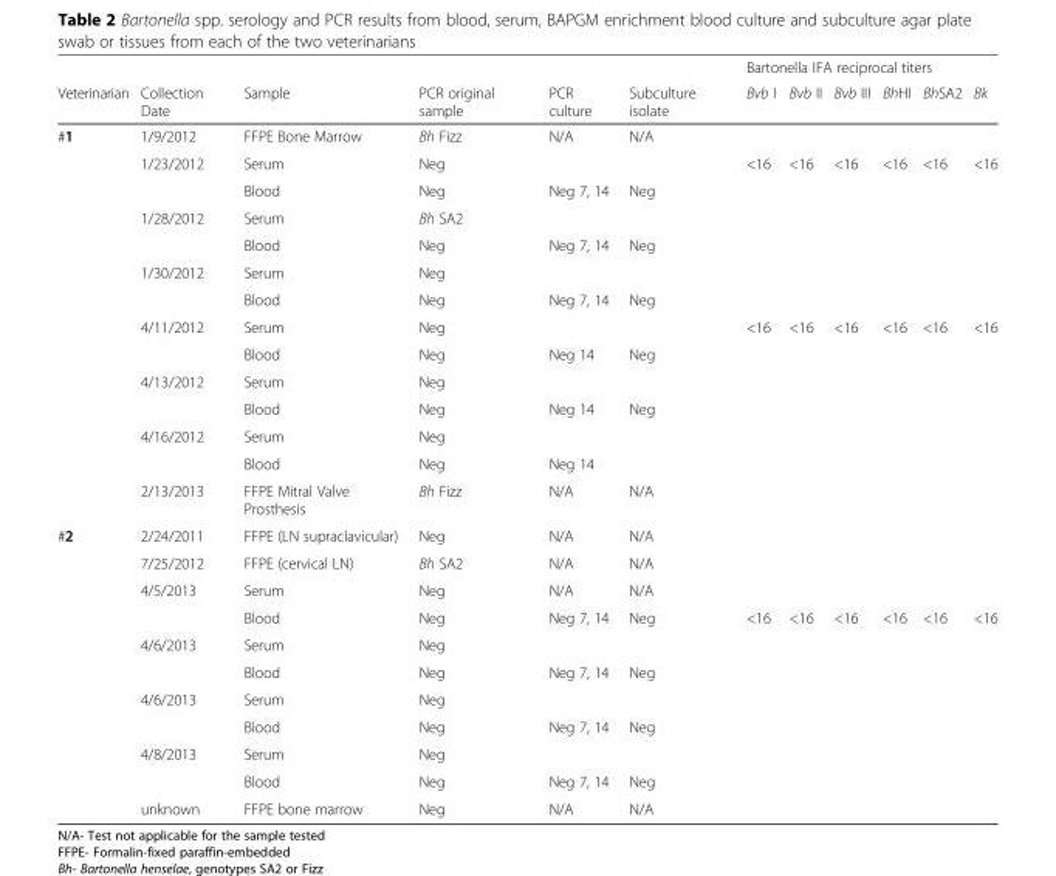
<table><thead><tr><td rowspan="2">Veterinarian</td><td rowspan="2">Collection Date</td><td rowspan="2">Sample</td><td rowspan="2">PCR original sample</td><td rowspan="2">PCR culture</td><td rowspan="2">Subculture isolate</td><td colspan="6">Bartonella IFA reciprocal titers</td></tr><tr><td>Bvb I</td><td>Bvb II</td><td>Bvb III</td><td>BhHI</td><td>BhSA2</td><td>Bk</td></tr></thead><tbody><tr><td rowspan="14">#1</td><td>1/9/2012</td><td>FFPE Bone Marrow</td><td>Bh Fizz</td><td>N/A</td><td>N/A</td><td></td><td></td><td></td><td></td><td></td><td></td></tr><tr><td>1/23/2012</td><td>Serum</td><td>Neg</td><td></td><td></td><td>&lt;16</td><td>&lt;16</td><td>&lt;16</td><td>&lt;16</td><td>&lt;16</td><td>&lt;16</td></tr><tr><td></td><td>Blood</td><td>Neg</td><td>Neg 7, 14</td><td>Neg</td><td></td><td></td><td></td><td></td><td></td><td></td></tr><tr><td>1/28/2012</td><td>Serum</td><td>Bh SA2</td><td></td><td></td><td></td><td></td><td></td><td></td><td></td><td></td></tr><tr><td></td><td>Blood</td><td>Neg</td><td>Neg 7, 14</td><td>Neg</td><td></td><td></td><td></td><td></td><td></td><td></td></tr><tr><td>1/30/2012</td><td>Serum</td><td>Neg</td><td></td><td></td><td></td><td></td><td></td><td></td><td></td><td></td></tr><tr><td></td><td>Blood</td><td>Neg</td><td>Neg 7, 14</td><td>Neg</td><td></td><td></td><td></td><td></td><td></td><td></td></tr><tr><td>4/11/2012</td><td>Serum</td><td>Neg</td><td></td><td></td><td>&lt;16</td><td>&lt;16</td><td>&lt;16</td><td>&lt;16</td><td>&lt;16</td><td>&lt;16</td></tr><tr><td></td><td>Blood</td><td>Neg</td><td>Neg 14</td><td>Neg</td><td></td><td></td><td></td><td></td><td></td><td></td></tr><tr><td>4/13/2012</td><td>Serum</td><td>Neg</td><td></td><td></td><td></td><td></td><td></td><td></td><td></td><td></td></tr><tr><td></td><td>Blood</td><td>Neg</td><td>Neg 14</td><td>Neg</td><td></td><td></td><td></td><td></td><td></td><td></td></tr><tr><td>4/16/2012</td><td>Serum</td><td>Neg</td><td></td><td></td><td></td><td></td><td></td><td></td><td></td><td></td></tr><tr><td></td><td>Blood</td><td>Neg</td><td>Neg 14</td><td></td><td></td><td></td><td></td><td></td><td></td><td></td></tr><tr><td>2/13/2013</td><td>FFPE Mitral Valve Prosthesis</td><td>Bh Fizz</td><td>N/A</td><td>N/A</td><td></td><td></td><td></td><td></td><td></td><td></td></tr><tr><td rowspan="11">#2</td><td>2/24/2011</td><td>FFPE (LN supraclavicular)</td><td>Neg</td><td>N/A</td><td>N/A</td><td></td><td></td><td></td><td></td><td></td><td></td></tr><tr><td>7/25/2012</td><td>FFPE (cervical LN)</td><td>Bh SA2</td><td>N/A</td><td>N/A</td><td></td><td></td><td></td><td></td><td></td><td></td></tr><tr><td>4/5/2013</td><td>Serum</td><td>Neg</td><td>N/A</td><td>N/A</td><td></td><td></td><td></td><td></td><td></td><td></td></tr><tr><td></td><td>Blood</td><td>Neg</td><td>Neg 7, 14</td><td>Neg</td><td>&lt;16</td><td>&lt;16</td><td>&lt;16</td><td>&lt;16</td><td>&lt;16</td><td>&lt;16</td></tr><tr><td>4/6/2013</td><td>Serum</td><td>Neg</td><td></td><td></td><td></td><td></td><td></td><td></td><td></td><td></td></tr><tr><td></td><td>Blood</td><td>Neg</td><td>Neg 7, 14</td><td>Neg</td><td></td><td></td><td></td><td></td><td></td><td></td></tr><tr><td>4/6/2013</td><td>Serum</td><td>Neg</td><td></td><td></td><td></td><td></td><td></td><td></td><td></td><td></td></tr><tr><td></td><td>Blood</td><td>Neg</td><td>Neg 7, 14</td><td>Neg</td><td></td><td></td><td></td><td></td><td></td><td></td></tr><tr><td>4/8/2013</td><td>Serum</td><td>Neg</td><td></td><td></td><td></td><td></td><td></td><td></td><td></td><td></td></tr><tr><td></td><td>Blood</td><td>Neg</td><td>Neg 7, 14</td><td>Neg</td><td></td><td></td><td></td><td></td><td></td><td></td></tr><tr><td>unknown</td><td>FFPE bone marrow</td><td>Neg</td><td>N/A</td><td>N/A</td><td></td><td></td><td></td><td></td><td></td><td></td></tr></tbody></table>